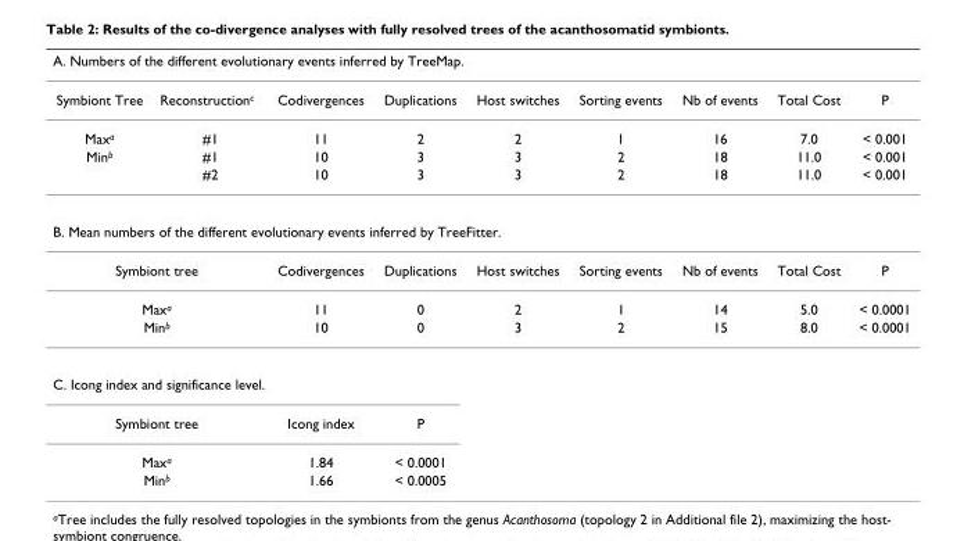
<table><thead><tr><td colspan="9">A. Numbers of the different evolutionary events inferred by TreeMap.</td></tr><tr><td>Symbiont Tree</td><td>Reconstruction<sup>c</sup></td><td>Codivergences</td><td>Duplications</td><td>Host switches</td><td>Sorting events</td><td>Nb of events</td><td>Total Cost</td><td>P</td></tr></thead><tbody><tr><td>Max<sup>a</sup></td><td>#1</td><td>11</td><td>2</td><td>2</td><td>1</td><td>16</td><td>7.0</td><td>&lt; 0.001</td></tr><tr><td rowspan="2">Min<sup>b</sup></td><td>#1</td><td>10</td><td>3</td><td>3</td><td>2</td><td>18</td><td>11.0</td><td>&lt; 0.001</td></tr><tr><td>#2</td><td>10</td><td>3</td><td>3</td><td>2</td><td>18</td><td>11.0</td><td>&lt; 0.001</td></tr><tr><td colspan="9">B. Mean numbers of the different evolutionary events inferred by TreeFitter.</td></tr><tr><td colspan="2">Symbiont tree</td><td>Codivergences</td><td>Duplications</td><td>Host switches</td><td>Sorting events</td><td>Nb of events</td><td>Total Cost</td><td>P</td></tr><tr><td colspan="2">Max<sup>a</sup></td><td>11</td><td>0</td><td>2</td><td>1</td><td>14</td><td>5.0</td><td>&lt; 0.0001</td></tr><tr><td colspan="2">Min<sup>b</sup></td><td>10</td><td>0</td><td>3</td><td>2</td><td>15</td><td>8.0</td><td>&lt; 0.0001</td></tr><tr><td colspan="9">C. Icong index and significance level.</td></tr><tr><td colspan="2">Symbiont tree</td><td>Icong index</td><td>P</td><td></td><td></td><td></td><td></td><td></td></tr><tr><td colspan="2">Max<sup>a</sup></td><td>1.84</td><td>&lt; 0.0001</td><td></td><td></td><td></td><td></td><td></td></tr><tr><td colspan="2">Min<sup>b</sup></td><td>1.66</td><td>&lt; 0.0005</td><td></td><td></td><td></td><td></td><td></td></tr></tbody></table>